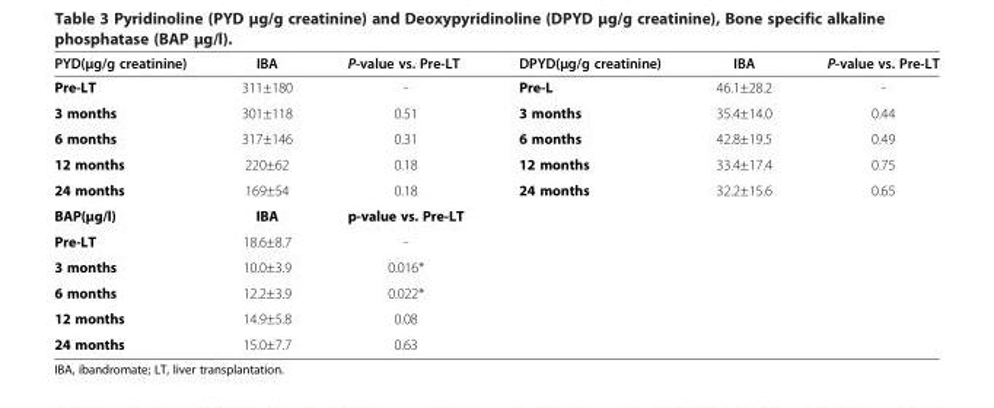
<table><thead><tr><td>PYD(μg/g creatinine)</td><td>IBA</td><td>P-value vs. Pre-LT</td><td>DPYD(μg/g creatinine)</td><td>IBA</td><td>P-value vs. Pre-LT</td></tr></thead><tbody><tr><td>Pre-LT</td><td>311±180</td><td>-</td><td>Pre-L</td><td>46.1±28.2</td><td>-</td></tr><tr><td>3 months</td><td>301±118</td><td>0.51</td><td>3 months</td><td>35.4±14.0</td><td>0.44</td></tr><tr><td>6 months</td><td>317±146</td><td>0.31</td><td>6 months</td><td>42.8±19.5</td><td>0.49</td></tr><tr><td>12 months</td><td>220±62</td><td>0.18</td><td>12 months</td><td>33.4±17.4</td><td>0.75</td></tr><tr><td>24 months</td><td>169±54</td><td>0.18</td><td>24 months</td><td>32.2±15.6</td><td>0.65</td></tr><tr><td>BAP(μg/l)</td><td>IBA</td><td>p-value vs. Pre-LT</td><td colspan="3"></td></tr><tr><td>Pre-LT</td><td>18.6±8.7</td><td>-</td><td colspan="3"></td></tr><tr><td>3 months</td><td>10.0±3.9</td><td>0.016*</td><td colspan="3"></td></tr><tr><td>6 months</td><td>12.2±3.9</td><td>0.022*</td><td colspan="3"></td></tr><tr><td>12 months</td><td>14.9±5.8</td><td>0.08</td><td colspan="3"></td></tr><tr><td>24 months</td><td>15.0±7.7</td><td>0.63</td><td colspan="3"></td></tr></tbody></table>